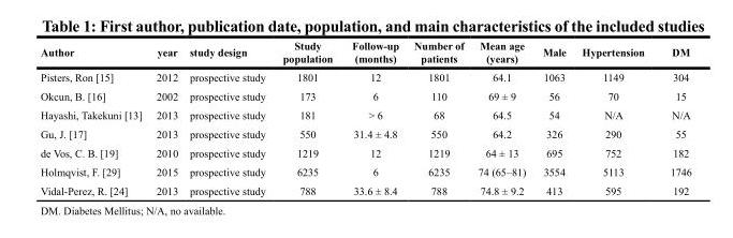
<table><thead><tr><td>Author</td><td>year</td><td>study design</td><td>Study population</td><td>Follow-up (months)</td><td>Number of patients</td><td>Mean age (years)</td><td>Male</td><td>Hypertension</td><td>DM</td></tr></thead><tbody><tr><td>Pisters, Ron [15]</td><td>2012</td><td>prospective study</td><td>1801</td><td>12</td><td>1801</td><td>64.1</td><td>1063</td><td>1149</td><td>304</td></tr><tr><td>Okcun, B. [16]</td><td>2002</td><td>prospective study</td><td>173</td><td>6</td><td>110</td><td>69 ± 9</td><td>56</td><td>70</td><td>15</td></tr><tr><td>Hayashi, Takekuni [13]</td><td>2013</td><td>prospective study</td><td>181</td><td>&gt; 6</td><td>68</td><td>64.5</td><td>54</td><td>N/A</td><td>N/A</td></tr><tr><td>Gu, J. [17]</td><td>2013</td><td>prospective study</td><td>550</td><td>31.4 ± 4.8</td><td>550</td><td>64.2</td><td>326</td><td>290</td><td>55</td></tr><tr><td>de Vos, C. B. [19]</td><td>2010</td><td>prospective study</td><td>1219</td><td>12</td><td>1219</td><td>64 ± 13</td><td>695</td><td>752</td><td>182</td></tr><tr><td>Holmqvist, F. [29]</td><td>2015</td><td>prospective study</td><td>6235</td><td>6</td><td>6235</td><td>74 (65–81)</td><td>3554</td><td>5113</td><td>1746</td></tr><tr><td>Vidal-Perez, R. [24]</td><td>2013</td><td>prospective study</td><td>788</td><td>33.6 ± 8.4</td><td>788</td><td>74.8 ± 9.2</td><td>413</td><td>595</td><td>192</td></tr></tbody></table>